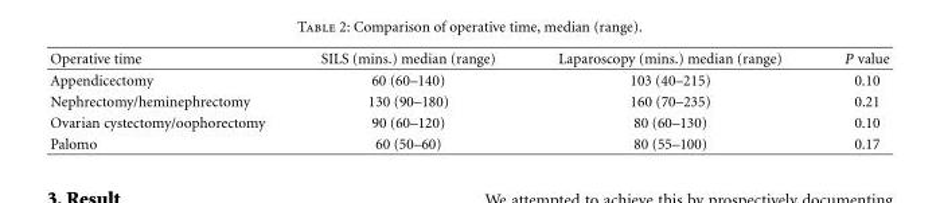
<table><thead><tr><td>Operative time</td><td>SILS (mins.) median (range)</td><td>Laparoscopy (mins.) median (range)</td><td>P value</td></tr></thead><tbody><tr><td>Appendicectomy</td><td>60 (60–140)</td><td>103 (40–215)</td><td>0.10</td></tr><tr><td>Nephrectomy/heminephrectomy</td><td>130 (90–180)</td><td>160 (70–235)</td><td>0.21</td></tr><tr><td>Ovarian cystectomy/oophorectomy</td><td>90 (60–120)</td><td>80 (60–130)</td><td>0.10</td></tr><tr><td>Palomo</td><td>60 (50–60)</td><td>80 (55–100)</td><td>0.17</td></tr></tbody></table>